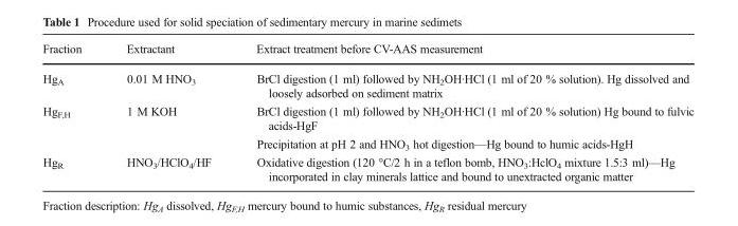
<table><thead><tr><td>Fraction</td><td>Extractant</td><td>Extract treatment before CV-AAS measurement</td></tr></thead><tbody><tr><td>Hg<sub>A</sub></td><td>0.01 M HNO<sub>3</sub></td><td>BrCl digestion (1 ml) followed by NH<sub>2</sub>OH·HCl (1 ml of 20 % solution). Hg dissolved and loosely adsorbed on sediment matrix</td></tr><tr><td rowspan="2">Hg<sub>F,H</sub></td><td rowspan="2">1 M KOH</td><td>BrCl digestion (1 ml) followed by NH<sub>2</sub>OH·HCl (1 ml of 20 % solution) Hg bound to fulvic acids-HgF</td></tr><tr><td>Precipitation at pH 2 and HNO<sub>3</sub> hot digestion—Hg bound to humic acids-HgH</td></tr><tr><td>Hg<sub>R</sub></td><td>HNO<sub>3</sub>/HClO<sub>4</sub>/HF</td><td>Oxidative digestion (120 °C/2 h in a teflon bomb, HNO<sub>3</sub>:HclO<sub>4</sub> mixture 1.5:3 ml)—Hg incorporated in clay minerals lattice and bound to unextracted organic matter</td></tr></tbody></table>